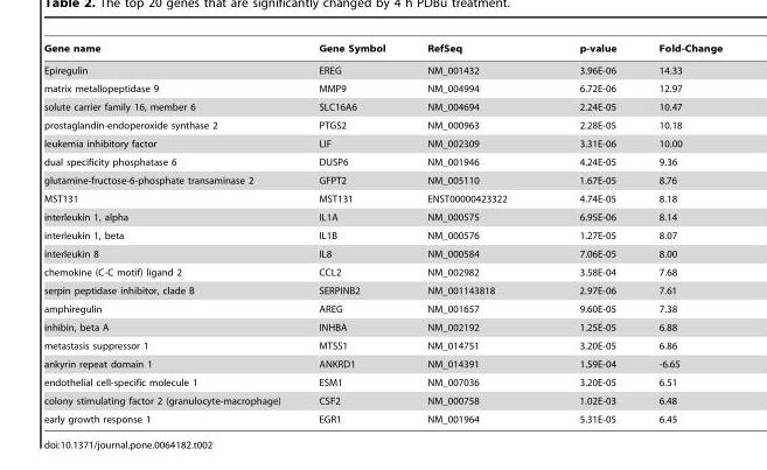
<table><thead><tr><td>Gene name</td><td>Gene Symbol</td><td>RefSeq</td><td>p-value</td><td>Fold-Change</td></tr></thead><tbody><tr><td>Epiregulin</td><td>EREG</td><td>NM_001432</td><td>3.96E-06</td><td>14.33</td></tr><tr><td>matrix metallopeptidase 9</td><td>MMP9</td><td>NM_004994</td><td>6.72E-06</td><td>12.97</td></tr><tr><td>solute carrier family 16, member 6</td><td>SLC16A6</td><td>NM_004694</td><td>2.24E-05</td><td>10.47</td></tr><tr><td>prostaglandin-endoperoxide synthase 2</td><td>PTGS2</td><td>NM_000963</td><td>2.28E-05</td><td>10.18</td></tr><tr><td>leukemia inhibitory factor</td><td>LIF</td><td>NM_002309</td><td>3.31E-06</td><td>10.00</td></tr><tr><td>dual specificity phosphatase 6</td><td>DUSP6</td><td>NM_001946</td><td>4.24E-05</td><td>9.36</td></tr><tr><td>glutamine-fructose-6-phosphate transaminase 2</td><td>GFPT2</td><td>NM_005110</td><td>1.67E-05</td><td>8.76</td></tr><tr><td>MST131</td><td>MST131</td><td>ENST00000423322</td><td>4.74E-05</td><td>8.18</td></tr><tr><td>interleukin 1, alpha</td><td>IL1A</td><td>NM_000575</td><td>6.95E-06</td><td>8.14</td></tr><tr><td>interleukin 1, beta</td><td>IL1B</td><td>NM_000576</td><td>1.27E-05</td><td>8.07</td></tr><tr><td>interleukin 8</td><td>IL8</td><td>NM_000584</td><td>7.06E-05</td><td>8.00</td></tr><tr><td>chemokine (C-C motif) ligand 2</td><td>CCL2</td><td>NM_002982</td><td>3.58E-04</td><td>7.68</td></tr><tr><td>serpin peptidase inhibitor, clade B</td><td>SERPINB2</td><td>NM_001143818</td><td>2.97E-06</td><td>7.61</td></tr><tr><td>amphiregulin</td><td>AREG</td><td>NM_001657</td><td>9.60E-05</td><td>7.38</td></tr><tr><td>inhibin, beta A</td><td>INHBA</td><td>NM_002192</td><td>1.25E-05</td><td>6.88</td></tr><tr><td>metastasis suppressor 1</td><td>MTSS1</td><td>NM_014751</td><td>3.20E-05</td><td>6.86</td></tr><tr><td>ankyrin repeat domain 1</td><td>ANKRD1</td><td>NM_014391</td><td>1.59E-04</td><td>-6.65</td></tr><tr><td>endothelial cell-specific molecule 1</td><td>ESM1</td><td>NM_007036</td><td>3.20E-05</td><td>6.51</td></tr><tr><td>colony stimulating factor 2 (granulocyte-macrophage)</td><td>CSF2</td><td>NM_000758</td><td>1.02E-03</td><td>6.48</td></tr><tr><td>early growth response 1</td><td>EGR1</td><td>NM_001964</td><td>5.31E-05</td><td>6.45</td></tr></tbody></table>